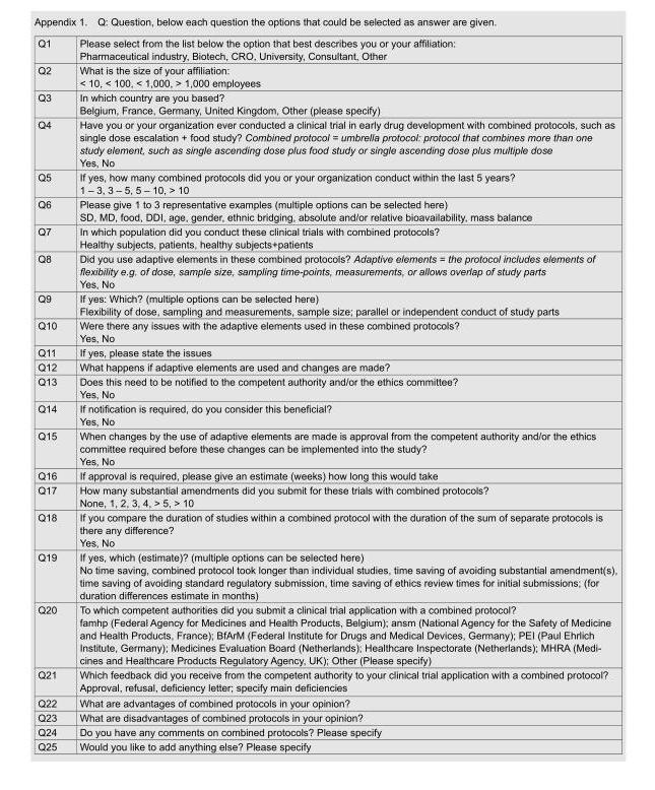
<table><tbody><tr><td>Q1</td><td>Please select from the list below the option that best describes you or your affiliation: Pharmaceutical industry, Biotech, CRO, University, Consultant, Other</td></tr><tr><td>Q2</td><td>What is the size of your affiliation: &lt; 10, &lt; 100, &lt; 1,000, &gt; 1,000 employees</td></tr><tr><td>Q3</td><td>In which country are you based? Belgium, France, Germany, United Kingdom, Other (please specify)</td></tr><tr><td>Q4</td><td>Have you or your organization ever conducted a clinical trial in early drug development with combined protocols, such as single dose escalation + food study? Combined protocol = umbrella protocol: protocol that combines more than one study element, such as single ascending dose plus food study or single ascending dose plus multiple dose Yes, No</td></tr><tr><td>Q5</td><td>If yes, how many combined protocols did you or your organization conduct within the last 5 years? 1 – 3, 3 – 5, 5 – 10, &gt; 10</td></tr><tr><td>Q6</td><td>Please give 1 to 3 representative examples (multiple options can be selected here) SD, MD, food, DDI, age, gender, ethnic bridging, absolute and/or relative bioavailability, mass balance</td></tr><tr><td>Q7</td><td>In which population did you conduct these clinical trials with combined protocols? Healthy subjects, patients, healthy subjects+patients</td></tr><tr><td>Q8</td><td>Did you use adaptive elements in these combined protocols? Adaptive elements = the protocol includes elements of flexibility e.g. of dose, sample size, sampling time-points, measurements, or allows overlap of study parts Yes, No</td></tr><tr><td>Q9</td><td>If yes: Which? (multiple options can be selected here) Flexibility of dose, sampling and measurements, sample size; parallel or independent conduct of study parts</td></tr><tr><td>Q10</td><td>Were there any issues with the adaptive elements used in these combined protocols? Yes, No</td></tr><tr><td>Q11</td><td>If yes, please state the issues</td></tr><tr><td>Q12</td><td>What happens if adaptive elements are used and changes are made?</td></tr><tr><td>Q13</td><td>Does this need to be notified to the competent authority and/or the ethics committee? Yes, No</td></tr><tr><td>Q14</td><td>If notification is required, do you consider this beneficial? Yes, No</td></tr><tr><td>Q15</td><td>When changes by the use of adaptive elements are made is approval from the competent authority and/or the ethics committee required before these changes can be implemented into the study? Yes, No</td></tr><tr><td>Q16</td><td>If approval is required, please give an estimate (weeks) how long this would take</td></tr><tr><td>Q17</td><td>How many substantial amendments did you submit for these trials with combined protocols? None, 1, 2, 3, 4, &gt; 5, &gt; 10</td></tr><tr><td>Q18</td><td>If you compare the duration of studies within a combined protocol with the duration of the sum of separate protocols is there any difference? Yes, No</td></tr><tr><td>Q19</td><td>If yes, which (estimate)? (multiple options can be selected here) No time saving, combined protocol took longer than individual studies, time saving of avoiding substantial amendment(s), time saving of avoiding standard regulatory submission, time saving of ethics review times for initial submissions; (for duration differences estimate in months)</td></tr><tr><td>Q20</td><td>To which competent authorities did you submit a clinical trial application with a combined protocol? famhp (Federal Agency for Medicines and Health Products, Belgium); ansm (National Agency for the Safety of Medicine and Health Products, France); BfArM (Federal Institute for Drugs and Medical Devices, Germany); PEI (Paul Ehrlich Institute, Germany); Medicines Evaluation Board (Netherlands); Healthcare Inspectorate (Netherlands); MHRA (Medi- cines and Healthcare Products Regulatory Agency, UK); Other (Please specify)</td></tr><tr><td>Q21</td><td>Which feedback did you receive from the competent authority to your clinical trial application with a combined protocol? Approval, refusal, deficiency letter; specify main deficiencies</td></tr><tr><td>Q22</td><td>What are advantages of combined protocols in your opinion?</td></tr><tr><td>Q23</td><td>What are disadvantages of combined protocols in your opinion?</td></tr><tr><td>Q24</td><td>Do you have any comments on combined protocols? Please specify</td></tr><tr><td>Q25</td><td>Would you like to add anything else? Please specify</td></tr></tbody></table>